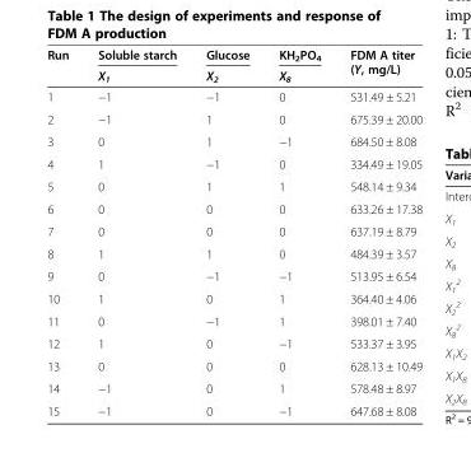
<table><thead><tr><td rowspan="2">Run</td><td rowspan="2">Soluble starch X<sub>1</sub></td><td rowspan="2">Glucose X<sub>2</sub></td><td rowspan="2">KH<sub>2</sub>PO<sub>4</sub> X<sub>8</sub></td><td rowspan="2">FDM A titer (Y, mg/L)</td></tr><tr></tr></thead><tbody><tr><td>1</td><td>−1</td><td>−1</td><td>0</td><td>531.49 ± 5.21</td></tr><tr><td>2</td><td>−1</td><td>1</td><td>0</td><td>675.39 ± 20.00</td></tr><tr><td>3</td><td>0</td><td>1</td><td>−1</td><td>684.50 ± 8.08</td></tr><tr><td>4</td><td>1</td><td>−1</td><td>0</td><td>334.49 ± 19.05</td></tr><tr><td>5</td><td>0</td><td>1</td><td>1</td><td>548.14 ± 9.34</td></tr><tr><td>6</td><td>0</td><td>0</td><td>0</td><td>633.26 ± 17.38</td></tr><tr><td>7</td><td>0</td><td>0</td><td>0</td><td>637.19 ± 8.79</td></tr><tr><td>8</td><td>1</td><td>1</td><td>0</td><td>484.39 ± 3.57</td></tr><tr><td>9</td><td>0</td><td>−1</td><td>−1</td><td>513.95 ± 6.54</td></tr><tr><td>10</td><td>1</td><td>0</td><td>1</td><td>364.40 ± 4.06</td></tr><tr><td>11</td><td>0</td><td>−1</td><td>1</td><td>398.01 ± 7.40</td></tr><tr><td>12</td><td>1</td><td>0</td><td>−1</td><td>533.37 ± 3.95</td></tr><tr><td>13</td><td>0</td><td>0</td><td>0</td><td>628.13 ± 10.49</td></tr><tr><td>14</td><td>−1</td><td>0</td><td>1</td><td>578.48 ± 8.97</td></tr><tr><td>15</td><td>−1</td><td>0</td><td>−1</td><td>647.68 ± 8.08</td></tr></tbody></table>